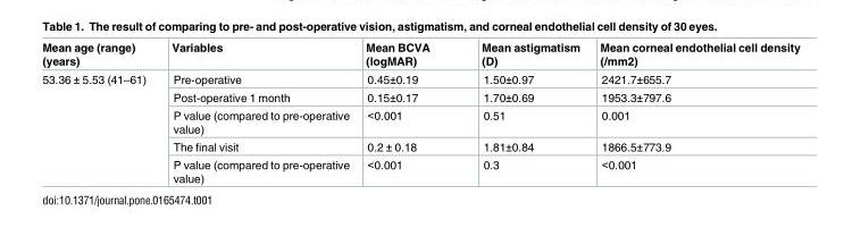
<table><thead><tr><td>Mean age (range) (years)</td><td>Variables</td><td>Mean BCVA (logMAR)</td><td>Mean astigmatism (D)</td><td>Mean corneal endothelial cell density (/mm2)</td></tr></thead><tbody><tr><td rowspan="5">53.36 ± 5.53 (41–61)</td><td>Pre-operative</td><td>0.45±0.19</td><td>1.50±0.97</td><td>2421.7±655.7</td></tr><tr><td>Post-operative 1 month</td><td>0.15±0.17</td><td>1.70±0.69</td><td>1953.3±797.6</td></tr><tr><td>P value (compared to pre-operative value)</td><td>&lt;0.001</td><td>0.51</td><td>0.001</td></tr><tr><td>The final visit</td><td>0.2 ± 0.18</td><td>1.81±0.84</td><td>1866.5±773.9</td></tr><tr><td>P value (compared to pre-operative value)</td><td>&lt;0.001</td><td>0.3</td><td>&lt;0.001</td></tr></tbody></table>